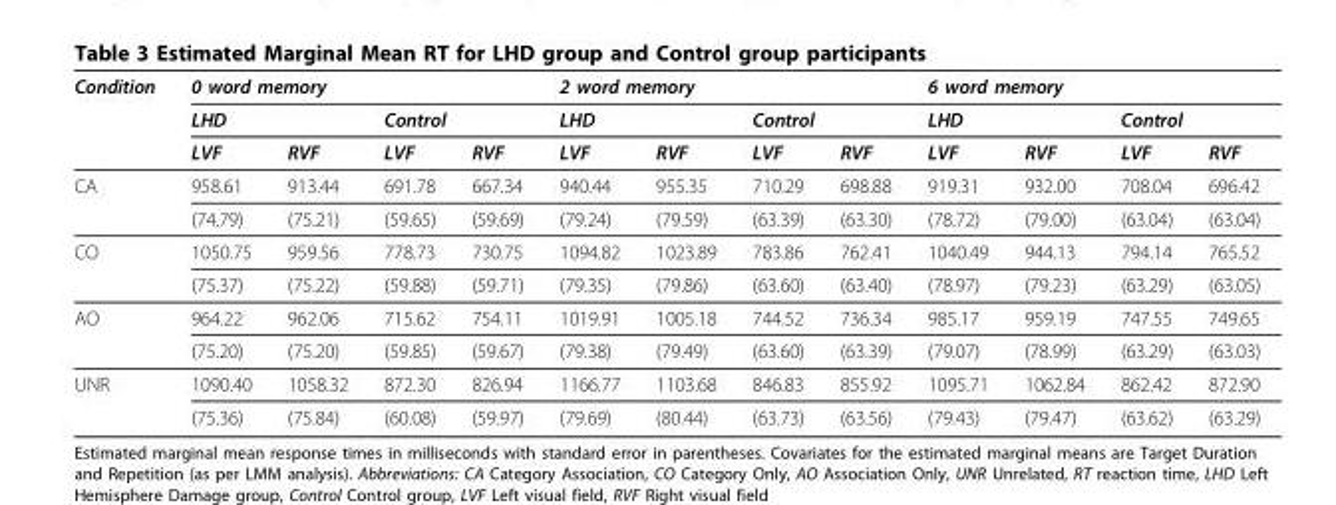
<table><thead><tr><td rowspan="3">Condition</td><td colspan="4">0 word memory</td><td colspan="4">2 word memory</td><td colspan="4">6 word memory</td></tr><tr><td colspan="2">LHD</td><td colspan="2">Control</td><td colspan="2">LHD</td><td colspan="2">Control</td><td colspan="2">LHD</td><td colspan="2">Control</td></tr><tr><td>LVF</td><td>RVF</td><td>LVF</td><td>RVF</td><td>LVF</td><td>RVF</td><td>LVF</td><td>RVF</td><td>LVF</td><td>RVF</td><td>LVF</td><td>RVF</td></tr></thead><tbody><tr><td rowspan="2">CA</td><td>958.61</td><td>913.44</td><td>691.78</td><td>667.34</td><td>940.44</td><td>955.35</td><td>710.29</td><td>698.88</td><td>919.31</td><td>932.00</td><td>708.04</td><td>696.42</td></tr><tr><td>(74.79)</td><td>(75.21)</td><td>(59.65)</td><td>(59.69)</td><td>(79.24)</td><td>(79.59)</td><td>(63.39)</td><td>(63.30)</td><td>(78.72)</td><td>(79.00)</td><td>(63.04)</td><td>(63.04)</td></tr><tr><td rowspan="2">CO</td><td>1050.75</td><td>959.56</td><td>778.73</td><td>730.75</td><td>1094.82</td><td>1023.89</td><td>783.86</td><td>762.41</td><td>1040.49</td><td>944.13</td><td>794.14</td><td>765.52</td></tr><tr><td>(75.37)</td><td>(75.22)</td><td>(59.88)</td><td>(59.71)</td><td>(79.35)</td><td>(79.86)</td><td>(63.60)</td><td>(63.40)</td><td>(78.97)</td><td>(79.23)</td><td>(63.29)</td><td>(63.05)</td></tr><tr><td rowspan="2">AO</td><td>964.22</td><td>962.06</td><td>715.62</td><td>754.11</td><td>1019.91</td><td>1005.18</td><td>744.52</td><td>736.34</td><td>985.17</td><td>959.19</td><td>747.55</td><td>749.65</td></tr><tr><td>(75.20)</td><td>(75.20)</td><td>(59.85)</td><td>(59.67)</td><td>(79.38)</td><td>(79.49)</td><td>(63.60)</td><td>(63.39)</td><td>(79.07)</td><td>(78.99)</td><td>(63.29)</td><td>(63.03)</td></tr><tr><td rowspan="2">UNR</td><td>1090.40</td><td>1058.32</td><td>872.30</td><td>826.94</td><td>1166.77</td><td>1103.68</td><td>846.83</td><td>855.92</td><td>1095.71</td><td>1062.84</td><td>862.42</td><td>872.90</td></tr><tr><td>(75.36)</td><td>(75.84)</td><td>(60.08)</td><td>(59.97)</td><td>(79.69)</td><td>(80.44)</td><td>(63.73)</td><td>(63.56)</td><td>(79.43)</td><td>(79.47)</td><td>(63.62)</td><td>(63.29)</td></tr></tbody></table>